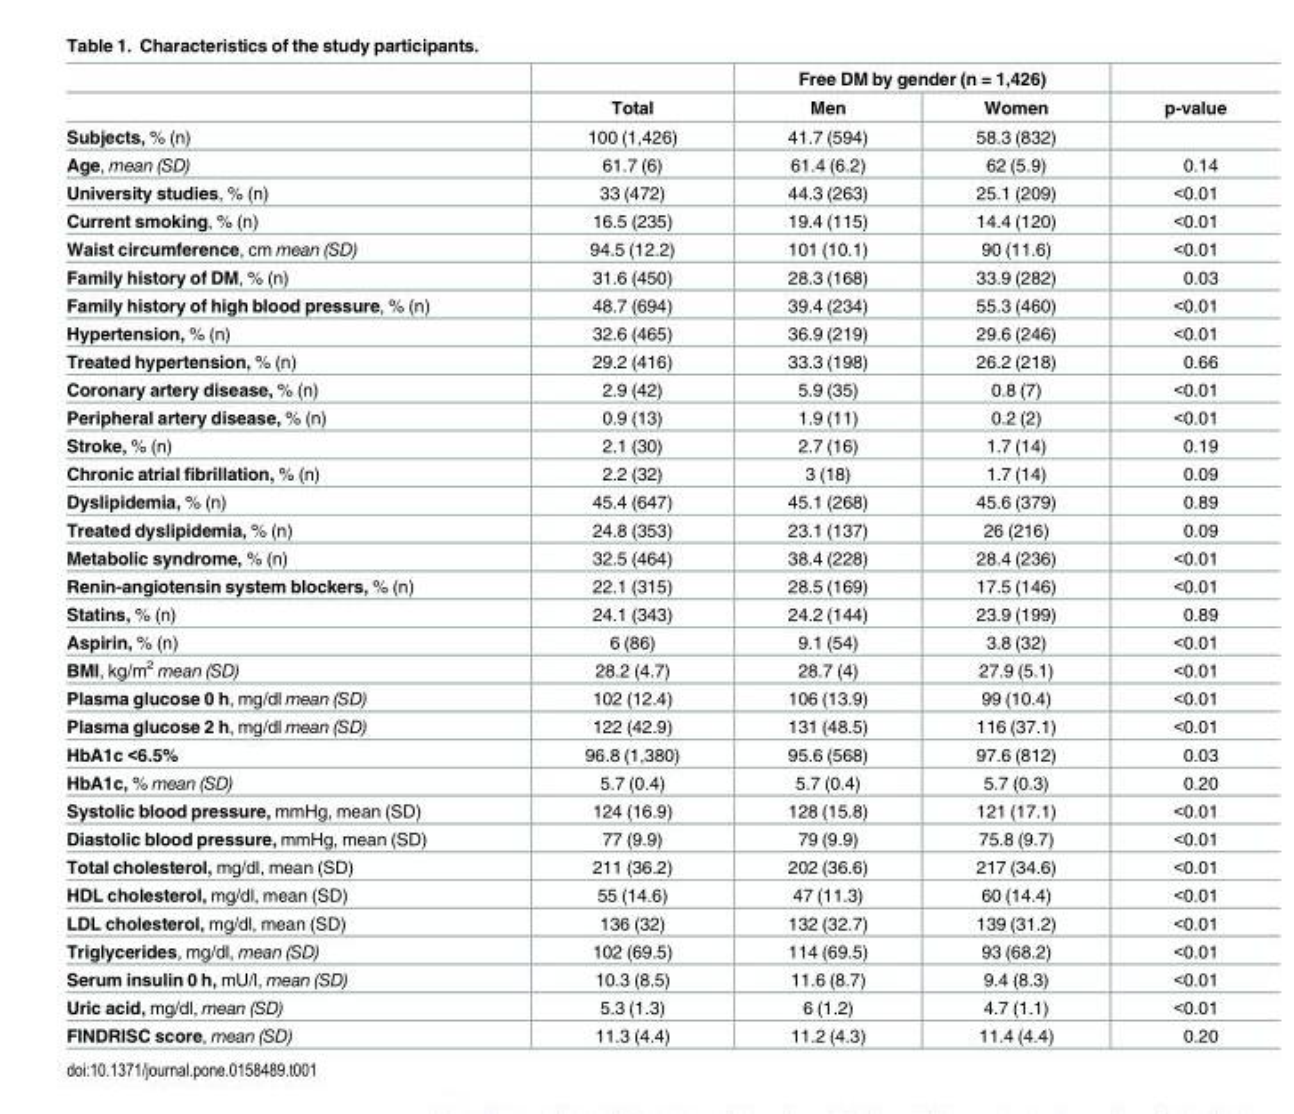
<table><thead><tr><td rowspan="2"></td><td rowspan="2">Total</td><td colspan="2">Free DM by gender (n = 1,426)</td><td rowspan="2">p-value</td></tr><tr><td>Men</td><td>Women</td></tr></thead><tbody><tr><td>Subjects, % (n)</td><td>100 (1,426)</td><td>41.7 (594)</td><td>58.3 (832)</td><td></td></tr><tr><td>Age, mean (SD)</td><td>61.7 (6)</td><td>61.4 (6.2)</td><td>62 (5.9)</td><td>0.14</td></tr><tr><td>University studies, % (n)</td><td>33 (472)</td><td>44.3 (263)</td><td>25.1 (209)</td><td>&lt;0.01</td></tr><tr><td>Current smoking, % (n)</td><td>16.5 (235)</td><td>19.4 (115)</td><td>14.4 (120)</td><td>&lt;0.01</td></tr><tr><td>Waist circumference, cm mean (SD)</td><td>94.5 (12.2)</td><td>101 (10.1)</td><td>90 (11.6)</td><td>&lt;0.01</td></tr><tr><td>Family history of DM, % (n)</td><td>31.6 (450)</td><td>28.3 (168)</td><td>33.9 (282)</td><td>0.03</td></tr><tr><td>Family history of high blood pressure, % (n)</td><td>48.7 (694)</td><td>39.4 (234)</td><td>55.3 (460)</td><td>&lt;0.01</td></tr><tr><td>Hypertension, % (n)</td><td>32.6 (465)</td><td>36.9 (219)</td><td>29.6 (246)</td><td>&lt;0.01</td></tr><tr><td>Treated hypertension, % (n)</td><td>29.2 (416)</td><td>33.3 (198)</td><td>26.2 (218)</td><td>0.66</td></tr><tr><td>Coronary artery disease, % (n)</td><td>2.9 (42)</td><td>5.9 (35)</td><td>0.8 (7)</td><td>&lt;0.01</td></tr><tr><td>Peripheral artery disease, % (n)</td><td>0.9 (13)</td><td>1.9 (11)</td><td>0.2 (2)</td><td>&lt;0.01</td></tr><tr><td>Stroke, % (n)</td><td>2.1 (30)</td><td>2.7 (16)</td><td>1.7 (14)</td><td>0.19</td></tr><tr><td>Chronic atrial fibrillation, % (n)</td><td>2.2 (32)</td><td>3 (18)</td><td>1.7 (14)</td><td>0.09</td></tr><tr><td>Dyslipidemia, % (n)</td><td>45.4 (647)</td><td>45.1 (268)</td><td>45.6 (379)</td><td>0.89</td></tr><tr><td>Treated dyslipidemia, % (n)</td><td>24.8 (353)</td><td>23.1 (137)</td><td>26 (216)</td><td>0.09</td></tr><tr><td>Metabolic syndrome, % (n)</td><td>32.5 (464)</td><td>38.4 (228)</td><td>28.4 (236)</td><td>&lt;0.01</td></tr><tr><td>Renin-angiotensin system blockers, % (n)</td><td>22.1 (315)</td><td>28.5 (169)</td><td>17.5 (146)</td><td>&lt;0.01</td></tr><tr><td>Statins, % (n)</td><td>24.1 (343)</td><td>24.2 (144)</td><td>23.9 (199)</td><td>0.89</td></tr><tr><td>Aspirin, % (n)</td><td>6 (86)</td><td>9.1 (54)</td><td>3.8 (32)</td><td>&lt;0.01</td></tr><tr><td>BMI, kg/m<sup>2</sup> mean (SD)</td><td>28.2 (4.7)</td><td>28.7 (4)</td><td>27.9 (5.1)</td><td>&lt;0.01</td></tr><tr><td>Plasma glucose 0 h, mg/dl mean (SD)</td><td>102 (12.4)</td><td>106 (13.9)</td><td>99 (10.4)</td><td>&lt;0.01</td></tr><tr><td>Plasma glucose 2 h, mg/dl mean (SD)</td><td>122 (42.9)</td><td>131 (48.5)</td><td>116 (37.1)</td><td>&lt;0.01</td></tr><tr><td>HbA1c &lt;6.5%</td><td>96.8 (1,380)</td><td>95.6 (568)</td><td>97.6 (812)</td><td>0.03</td></tr><tr><td>HbA1c, % mean (SD)</td><td>5.7 (0.4)</td><td>5.7 (0.4)</td><td>5.7 (0.3)</td><td>0.20</td></tr><tr><td>Systolic blood pressure, mmHg, mean (SD)</td><td>124 (16.9)</td><td>128 (15.8)</td><td>121 (17.1)</td><td>&lt;0.01</td></tr><tr><td>Diastolic blood pressure, mmHg, mean (SD)</td><td>77 (9.9)</td><td>79 (9.9)</td><td>75.8 (9.7)</td><td>&lt;0.01</td></tr><tr><td>Total cholesterol, mg/dl, mean (SD)</td><td>211 (36.2)</td><td>202 (36.6)</td><td>217 (34.6)</td><td>&lt;0.01</td></tr><tr><td>HDL cholesterol, mg/dl, mean (SD)</td><td>55 (14.6)</td><td>47 (11.3)</td><td>60 (14.4)</td><td>&lt;0.01</td></tr><tr><td>LDL cholesterol, mg/dl, mean (SD)</td><td>136 (32)</td><td>132 (32.7)</td><td>139 (31.2)</td><td>&lt;0.01</td></tr><tr><td>Triglycerides, mg/dl, mean (SD)</td><td>102 (69.5)</td><td>114 (69.5)</td><td>93 (68.2)</td><td>&lt;0.01</td></tr><tr><td>Serum insulin 0 h, mU/l, mean (SD)</td><td>10.3 (8.5)</td><td>11.6 (8.7)</td><td>9.4 (8.3)</td><td>&lt;0.01</td></tr><tr><td>Uric acid, mg/dl, mean (SD)</td><td>5.3 (1.3)</td><td>6 (1.2)</td><td>4.7 (1.1)</td><td>&lt;0.01</td></tr><tr><td>FINDRISC score, mean (SD)</td><td>11.3 (4.4)</td><td>11.2 (4.3)</td><td>11.4 (4.4)</td><td>0.20</td></tr></tbody></table>